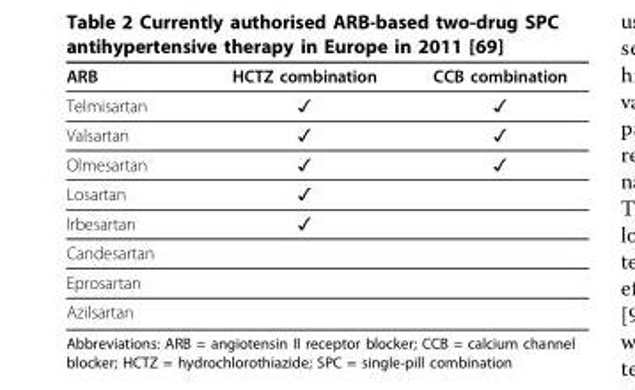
<table><thead><tr><td>ARB</td><td>HCTZ combination</td><td>CCB combination</td></tr></thead><tbody><tr><td>Telmisartan</td><td>✓</td><td>✓</td></tr><tr><td>Valsartan</td><td>✓</td><td>✓</td></tr><tr><td>Olmesartan</td><td>✓</td><td>✓</td></tr><tr><td>Losartan</td><td>✓</td><td></td></tr><tr><td>Irbesartan</td><td>✓</td><td></td></tr><tr><td colspan="3">Candesartan</td></tr><tr><td colspan="3">Eprosartan</td></tr><tr><td>Azilsartan</td><td></td><td></td></tr></tbody></table>